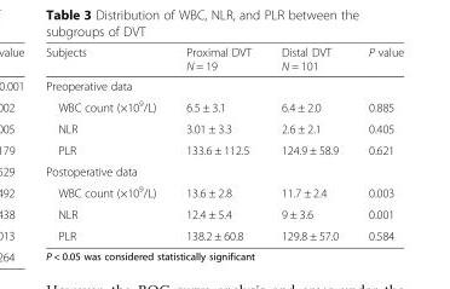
<table><thead><tr><td>Subjects</td><td>Proximal DVT N = 19</td><td>Distal DVT N = 101</td><td>P value</td></tr></thead><tbody><tr><td colspan="4">Preoperative data</td></tr><tr><td>WBC count (×10<sup>9</sup>/L)</td><td>6.5 ± 3.1</td><td>6.4 ± 2.0</td><td>0.885</td></tr><tr><td>NLR</td><td>3.01 ± 3.3</td><td>2.6 ± 2.1</td><td>0.405</td></tr><tr><td>PLR</td><td>133.6 ± 112.5</td><td>124.9 ± 58.9</td><td>0.621</td></tr><tr><td colspan="4">Postoperative data</td></tr><tr><td>WBC count (×10<sup>9</sup>/L)</td><td>13.6 ± 2.8</td><td>11.7 ± 2.4</td><td>0.003</td></tr><tr><td>NLR</td><td>12.4 ± 5.4</td><td>9 ± 3.6</td><td>0.001</td></tr><tr><td>PLR</td><td>138.2 ± 60.8</td><td>129.8 ± 57.0</td><td>0.584</td></tr></tbody></table>